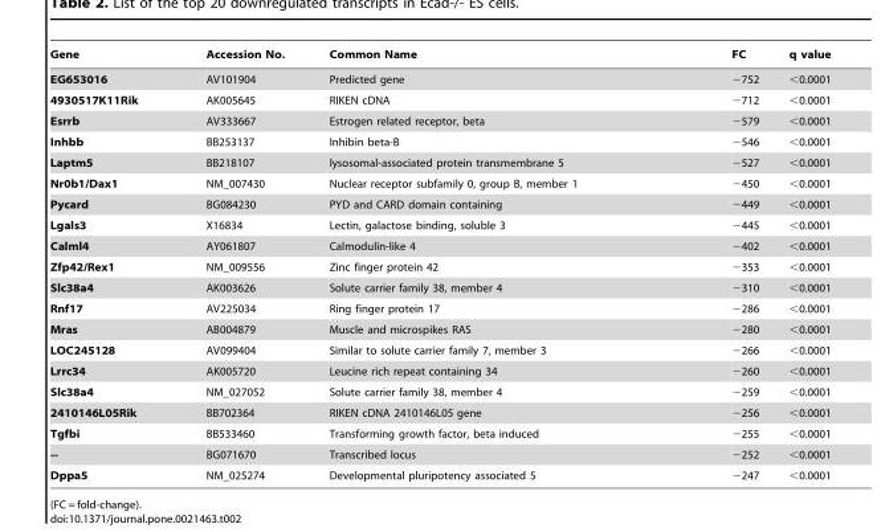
<table><thead><tr><td>Gene</td><td>Accession No.</td><td>Common Name</td><td>FC</td><td>q value</td></tr></thead><tbody><tr><td>EG653016</td><td>AV101904</td><td>Predicted gene</td><td>−752</td><td>&lt;0.0001</td></tr><tr><td>4930517K11Rik</td><td>AK005645</td><td>RIKEN cDNA</td><td>−712</td><td>&lt;0.0001</td></tr><tr><td>Esrrb</td><td>AV333667</td><td>Estrogen related receptor, beta</td><td>−579</td><td>&lt;0.0001</td></tr><tr><td>Inhbb</td><td>BB253137</td><td>Inhibin beta-B</td><td>−546</td><td>&lt;0.0001</td></tr><tr><td>Laptm5</td><td>BB218107</td><td>lysosomal-associated protein transmembrane 5</td><td>−527</td><td>&lt;0.0001</td></tr><tr><td>Nr0b1/Dax1</td><td>NM_007430</td><td>Nuclear receptor subfamily 0, group B, member 1</td><td>−450</td><td>&lt;0.0001</td></tr><tr><td>Pycard</td><td>BG084230</td><td>PYD and CARD domain containing</td><td>−449</td><td>&lt;0.0001</td></tr><tr><td>Lgals3</td><td>X16834</td><td>Lectin, galactose binding, soluble 3</td><td>−445</td><td>&lt;0.0001</td></tr><tr><td>Calml4</td><td>AY061807</td><td>Calmodulin-like 4</td><td>−402</td><td>&lt;0.0001</td></tr><tr><td>Zfp42/Rex1</td><td>NM_009556</td><td>Zinc finger protein 42</td><td>−353</td><td>&lt;0.0001</td></tr><tr><td>Slc38a4</td><td>AK003626</td><td>Solute carrier family 38, member 4</td><td>−310</td><td>&lt;0.0001</td></tr><tr><td>Rnf17</td><td>AV225034</td><td>Ring finger protein 17</td><td>−286</td><td>&lt;0.0001</td></tr><tr><td>Mras</td><td>AB004879</td><td>Muscle and microspikes RAS</td><td>−280</td><td>&lt;0.0001</td></tr><tr><td>LOC245128</td><td>AV099404</td><td>Similar to solute carrier family 7, member 3</td><td>−266</td><td>&lt;0.0001</td></tr><tr><td>Lrrc34</td><td>AK005720</td><td>Leucine rich repeat containing 34</td><td>−260</td><td>&lt;0.0001</td></tr><tr><td>Slc38a4</td><td>NM_027052</td><td>Solute carrier family 38, member 4</td><td>−259</td><td>&lt;0.0001</td></tr><tr><td>2410146L05Rik</td><td>BB702364</td><td>RIKEN cDNA 2410146L05 gene</td><td>−256</td><td>&lt;0.0001</td></tr><tr><td>Tgfbi</td><td>BB533460</td><td>Transforming growth factor, beta induced</td><td>−255</td><td>&lt;0.0001</td></tr><tr><td>--</td><td>BG071670</td><td>Transcribed locus</td><td>−252</td><td>&lt;0.0001</td></tr><tr><td>Dppa5</td><td>NM_025274</td><td>Developmental pluripotency associated 5</td><td>−247</td><td>&lt;0.0001</td></tr></tbody></table>